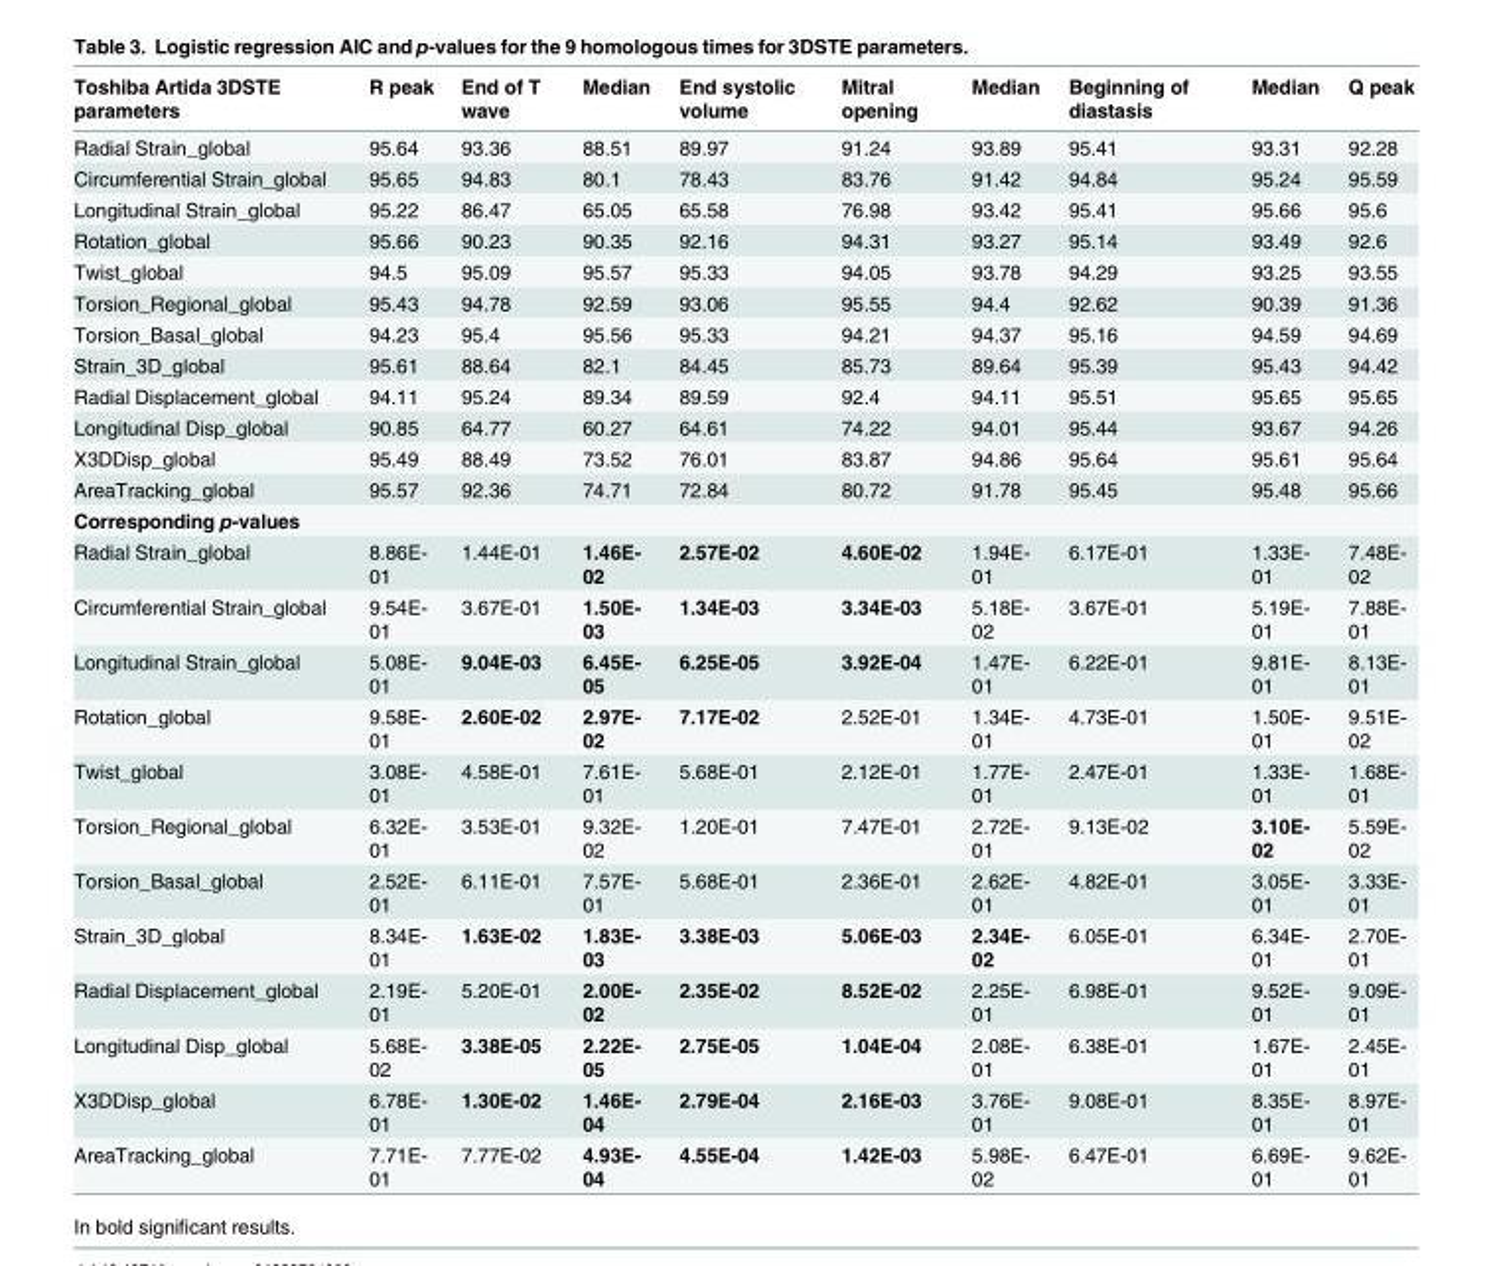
<table><thead><tr><td>Toshiba Artida 3DSTE parameters</td><td>R peak</td><td>End of T wave</td><td>Median</td><td>End systolic volume</td><td>Mitral opening</td><td>Median</td><td>Beginning of diastasis</td><td>Median</td><td>Q peak</td></tr></thead><tbody><tr><td>Radial Strain_global</td><td>95.64</td><td>93.36</td><td>88.51</td><td>89.97</td><td>91.24</td><td>93.89</td><td>95.41</td><td>93.31</td><td>92.28</td></tr><tr><td>Circumferential Strain_global</td><td>95.65</td><td>94.83</td><td>80.1</td><td>78.43</td><td>83.76</td><td>91.42</td><td>94.84</td><td>95.24</td><td>95.59</td></tr><tr><td>Longitudinal Strain_global</td><td>95.22</td><td>86.47</td><td>65.05</td><td>65.58</td><td>76.98</td><td>93.42</td><td>95.41</td><td>95.66</td><td>95.6</td></tr><tr><td>Rotation_global</td><td>95.66</td><td>90.23</td><td>90.35</td><td>92.16</td><td>94.31</td><td>93.27</td><td>95.14</td><td>93.49</td><td>92.6</td></tr><tr><td>Twist_global</td><td>94.5</td><td>95.09</td><td>95.57</td><td>95.33</td><td>94.05</td><td>93.78</td><td>94.29</td><td>93.25</td><td>93.55</td></tr><tr><td>Torsion_Regional_global</td><td>95.43</td><td>94.78</td><td>92.59</td><td>93.06</td><td>95.55</td><td>94.4</td><td>92.62</td><td>90.39</td><td>91.36</td></tr><tr><td>Torsion_Basal_global</td><td>94.23</td><td>95.4</td><td>95.56</td><td>95.33</td><td>94.21</td><td>94.37</td><td>95.16</td><td>94.59</td><td>94.69</td></tr><tr><td>Strain_3D_global</td><td>95.61</td><td>88.64</td><td>82.1</td><td>84.45</td><td>85.73</td><td>89.64</td><td>95.39</td><td>95.43</td><td>94.42</td></tr><tr><td>Radial Displacement_global</td><td>94.11</td><td>95.24</td><td>89.34</td><td>89.59</td><td>92.4</td><td>94.11</td><td>95.51</td><td>95.65</td><td>95.65</td></tr><tr><td>Longitudinal Disp_global</td><td>90.85</td><td>64.77</td><td>60.27</td><td>64.61</td><td>74.22</td><td>94.01</td><td>95.44</td><td>93.67</td><td>94.26</td></tr><tr><td>X3DDisp_global</td><td>95.49</td><td>88.49</td><td>73.52</td><td>76.01</td><td>83.87</td><td>94.86</td><td>95.64</td><td>95.61</td><td>95.64</td></tr><tr><td>AreaTracking_global</td><td>95.57</td><td>92.36</td><td>74.71</td><td>72.84</td><td>80.72</td><td>91.78</td><td>95.45</td><td>95.48</td><td>95.66</td></tr><tr><td colspan="10">Corresponding p-values</td></tr><tr><td>Radial Strain_global</td><td>8.86E- 01</td><td>1.44E-01</td><td>1.46E- 02</td><td>2.57E-02</td><td>4.60E-02</td><td>1.94E- 01</td><td>6.17E-01</td><td>1.33E- 01</td><td>7.48E- 02</td></tr><tr><td>Circumferential Strain_global</td><td>9.54E- 01</td><td>3.67E-01</td><td>1.50E- 03</td><td>1.34E-03</td><td>3.34E-03</td><td>5.18E- 02</td><td>3.67E-01</td><td>5.19E- 01</td><td>7.88E- 01</td></tr><tr><td>Longitudinal Strain_global</td><td>5.08E- 01</td><td>9.04E-03</td><td>6.45E- 05</td><td>6.25E-05</td><td>3.92E-04</td><td>1.47E- 01</td><td>6.22E-01</td><td>9.81E- 01</td><td>8.13E- 01</td></tr><tr><td>Rotation_global</td><td>9.58E- 01</td><td>2.60E-02</td><td>2.97E- 02</td><td>7.17E-02</td><td>2.52E-01</td><td>1.34E- 01</td><td>4.73E-01</td><td>1.50E- 01</td><td>9.51E- 02</td></tr><tr><td>Twist_global</td><td>3.08E- 01</td><td>4.58E-01</td><td>7.61E- 01</td><td>5.68E-01</td><td>2.12E-01</td><td>1.77E- 01</td><td>2.47E-01</td><td>1.33E- 01</td><td>1.68E- 01</td></tr><tr><td>Torsion_Regional_global</td><td>6.32E- 01</td><td>3.53E-01</td><td>9.32E- 02</td><td>1.20E-01</td><td>7.47E-01</td><td>2.72E- 01</td><td>9.13E-02</td><td>3.10E- 02</td><td>5.59E- 02</td></tr><tr><td>Torsion_Basal_global</td><td>2.52E- 01</td><td>6.11E-01</td><td>7.57E- 01</td><td>5.68E-01</td><td>2.36E-01</td><td>2.62E- 01</td><td>4.82E-01</td><td>3.05E- 01</td><td>3.33E- 01</td></tr><tr><td>Strain_3D_global</td><td>8.34E- 01</td><td>1.63E-02</td><td>1.83E- 03</td><td>3.38E-03</td><td>5.06E-03</td><td>2.34E- 02</td><td>6.05E-01</td><td>6.34E- 01</td><td>2.70E- 01</td></tr><tr><td>Radial Displacement_global</td><td>2.19E- 01</td><td>5.20E-01</td><td>2.00E- 02</td><td>2.35E-02</td><td>8.52E-02</td><td>2.25E- 01</td><td>6.98E-01</td><td>9.52E- 01</td><td>9.09E- 01</td></tr><tr><td>Longitudinal Disp_global</td><td>5.68E- 02</td><td>3.38E-05</td><td>2.22E- 05</td><td>2.75E-05</td><td>1.04E-04</td><td>2.08E- 01</td><td>6.38E-01</td><td>1.67E- 01</td><td>2.45E- 01</td></tr><tr><td>X3DDisp_global</td><td>6.78E- 01</td><td>1.30E-02</td><td>1.46E- 04</td><td>2.79E-04</td><td>2.16E-03</td><td>3.76E- 01</td><td>9.08E-01</td><td>8.35E- 01</td><td>8.97E- 01</td></tr><tr><td>AreaTracking_global</td><td>7.71E- 01</td><td>7.77E-02</td><td>4.93E- 04</td><td>4.55E-04</td><td>1.42E-03</td><td>5.98E- 02</td><td>6.47E-01</td><td>6.69E- 01</td><td>9.62E- 01</td></tr></tbody></table>